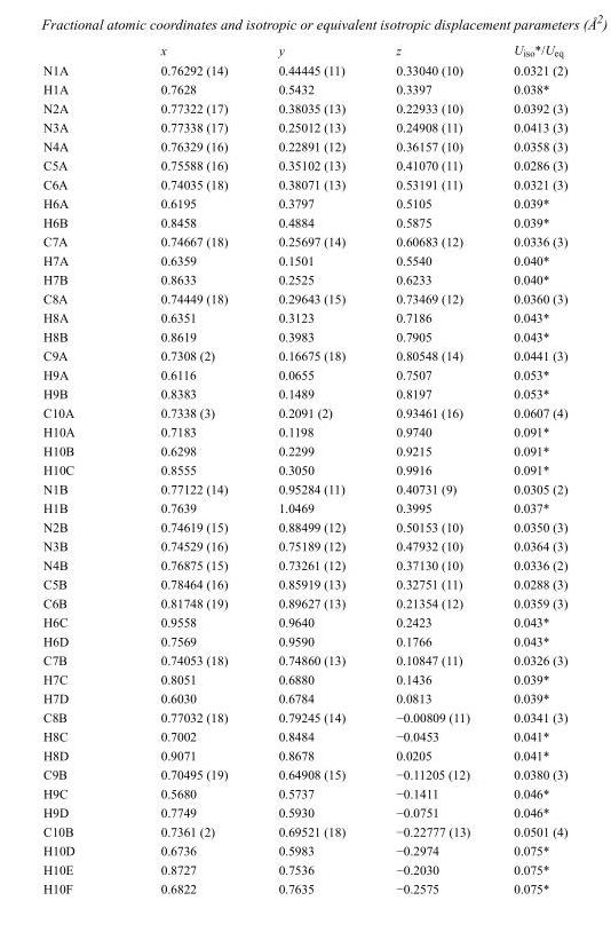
<table><thead><tr><td></td><td>x</td><td>y</td><td>z</td><td>U<sub>iso</sub>*/U<sub>eq</sub></td></tr></thead><tbody><tr><td>N1A</td><td>0.76292 (14)</td><td>0.44445 (11)</td><td>0.33040 (10)</td><td>0.0321 (2)</td></tr><tr><td>H1A</td><td>0.7628</td><td>0.5432</td><td>0.3397</td><td>0.038*</td></tr><tr><td>N2A</td><td>0.77322 (17)</td><td>0.38035 (13)</td><td>0.22933 (10)</td><td>0.0392 (3)</td></tr><tr><td>N3A</td><td>0.77338 (17)</td><td>0.25012 (13)</td><td>0.24908 (11)</td><td>0.0413 (3)</td></tr><tr><td>N4A</td><td>0.76329 (16)</td><td>0.22891 (12)</td><td>0.36157 (10)</td><td>0.0358 (3)</td></tr><tr><td>C5A</td><td>0.75588 (16)</td><td>0.35102 (13)</td><td>0.41070 (11)</td><td>0.0286 (3)</td></tr><tr><td>C6A</td><td>0.74035 (18)</td><td>0.38071 (13)</td><td>0.53191 (11)</td><td>0.0321 (3)</td></tr><tr><td>H6A</td><td>0.6195</td><td>0.3797</td><td>0.5105</td><td>0.039*</td></tr><tr><td>H6B</td><td>0.8458</td><td>0.4884</td><td>0.5875</td><td>0.039*</td></tr><tr><td>C7A</td><td>0.74667 (18)</td><td>0.25697 (14)</td><td>0.60683 (12)</td><td>0.0336 (3)</td></tr><tr><td>H7A</td><td>0.6359</td><td>0.1501</td><td>0.5540</td><td>0.040*</td></tr><tr><td>H7B</td><td>0.8633</td><td>0.2525</td><td>0.6233</td><td>0.040*</td></tr><tr><td>C8A</td><td>0.74449 (18)</td><td>0.29643 (15)</td><td>0.73469 (12)</td><td>0.0360 (3)</td></tr><tr><td>H8A</td><td>0.6351</td><td>0.3123</td><td>0.7186</td><td>0.043*</td></tr><tr><td>H8B</td><td>0.8619</td><td>0.3983</td><td>0.7905</td><td>0.043*</td></tr><tr><td>C9A</td><td>0.7308 (2)</td><td>0.16675 (18)</td><td>0.80548 (14)</td><td>0.0441 (3)</td></tr><tr><td>H9A</td><td>0.6116</td><td>0.0655</td><td>0.7507</td><td>0.053*</td></tr><tr><td>H9B</td><td>0.8383</td><td>0.1489</td><td>0.8197</td><td>0.053*</td></tr><tr><td>C10A</td><td>0.7338 (3)</td><td>0.2091 (2)</td><td>0.93461 (16)</td><td>0.0607 (4)</td></tr><tr><td>H10A</td><td>0.7183</td><td>0.1198</td><td>0.9740</td><td>0.091*</td></tr><tr><td>H10B</td><td>0.6298</td><td>0.2299</td><td>0.9215</td><td>0.091*</td></tr><tr><td>H10C</td><td>0.8555</td><td>0.3050</td><td>0.9916</td><td>0.091*</td></tr><tr><td>N1B</td><td>0.77122 (14)</td><td>0.95284 (11)</td><td>0.40731 (9)</td><td>0.0305 (2)</td></tr><tr><td>H1B</td><td>0.7639</td><td>1.0469</td><td>0.3995</td><td>0.037*</td></tr><tr><td>N2B</td><td>0.74619 (15)</td><td>0.88499 (12)</td><td>0.50153 (10)</td><td>0.0350 (3)</td></tr><tr><td>N3B</td><td>0.74529 (16)</td><td>0.75189 (12)</td><td>0.47932 (10)</td><td>0.0364 (3)</td></tr><tr><td>N4B</td><td>0.76875 (15)</td><td>0.73261 (12)</td><td>0.37130 (10)</td><td>0.0336 (2)</td></tr><tr><td>C5B</td><td>0.78464 (16)</td><td>0.85919 (13)</td><td>0.32751 (11)</td><td>0.0288 (3)</td></tr><tr><td>C6B</td><td>0.81748 (19)</td><td>0.89627 (13)</td><td>0.21354 (12)</td><td>0.0359 (3)</td></tr><tr><td>H6C</td><td>0.9558</td><td>0.9640</td><td>0.2423</td><td>0.043*</td></tr><tr><td>H6D</td><td>0.7569</td><td>0.9590</td><td>0.1766</td><td>0.043*</td></tr><tr><td>C7B</td><td>0.74053 (18)</td><td>0.74860 (13)</td><td>0.10847 (11)</td><td>0.0326 (3)</td></tr><tr><td>H7C</td><td>0.8051</td><td>0.6880</td><td>0.1436</td><td>0.039*</td></tr><tr><td>H7D</td><td>0.6030</td><td>0.6784</td><td>0.0813</td><td>0.039*</td></tr><tr><td>C8B</td><td>0.77032 (18)</td><td>0.79245 (14)</td><td>−0.00809 (11)</td><td>0.0341 (3)</td></tr><tr><td>H8C</td><td>0.7002</td><td>0.8484</td><td>−0.0453</td><td>0.041*</td></tr><tr><td>H8D</td><td>0.9071</td><td>0.8678</td><td>0.0205</td><td>0.041*</td></tr><tr><td>C9B</td><td>0.70495 (19)</td><td>0.64908 (15)</td><td>−0.11205 (12)</td><td>0.0380 (3)</td></tr><tr><td>H9C</td><td>0.5680</td><td>0.5737</td><td>−0.1411</td><td>0.046*</td></tr><tr><td>H9D</td><td>0.7749</td><td>0.5930</td><td>−0.0751</td><td>0.046*</td></tr><tr><td>C10B</td><td>0.7361 (2)</td><td>0.69521 (18)</td><td>−0.22777 (13)</td><td>0.0501 (4)</td></tr><tr><td>H10D</td><td>0.6736</td><td>0.5983</td><td>−0.2974</td><td>0.075*</td></tr><tr><td>H10E</td><td>0.8727</td><td>0.7536</td><td>−0.2030</td><td>0.075*</td></tr><tr><td>H10F</td><td>0.6822</td><td>0.7635</td><td>−0.2575</td><td>0.075*</td></tr></tbody></table>